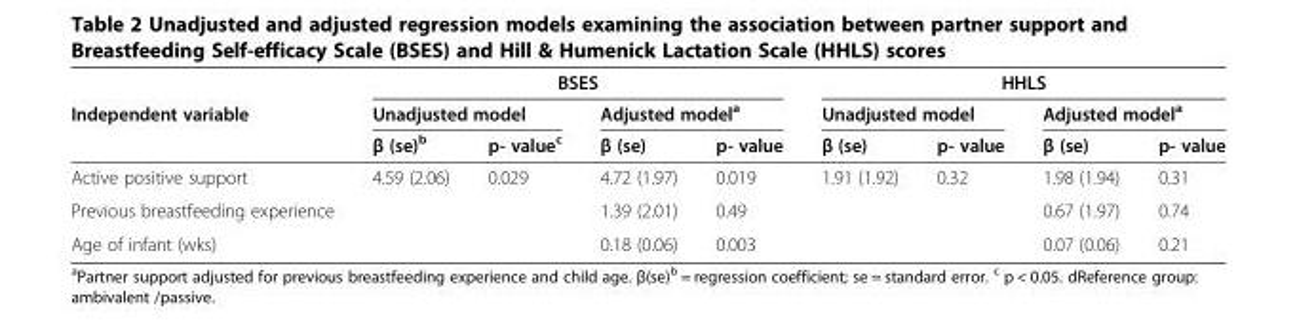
<table><thead><tr><td rowspan="3">Independent variable</td><td colspan="4">BSES</td><td colspan="4">HHLS</td></tr><tr><td colspan="2">Unadjusted model</td><td colspan="2">Adjusted model<sup>a</sup></td><td colspan="2">Unadjusted model</td><td colspan="2">Adjusted model<sup>a</sup></td></tr><tr><td>β (se)<sup>b</sup></td><td>p- value<sup>c</sup></td><td>β (se)</td><td>p- value</td><td>β (se)</td><td>p- value</td><td>β (se)</td><td>p- value</td></tr></thead><tbody><tr><td>Active positive support</td><td>4.59 (2.06)</td><td>0.029</td><td>4.72 (1.97)</td><td>0.019</td><td>1.91 (1.92)</td><td>0.32</td><td>1.98 (1.94)</td><td>0.31</td></tr><tr><td>Previous breastfeeding experience</td><td></td><td></td><td>1.39 (2.01)</td><td>0.49</td><td></td><td></td><td>0.67 (1.97)</td><td>0.74</td></tr><tr><td>Age of infant (wks)</td><td></td><td></td><td>0.18 (0.06)</td><td>0.003</td><td></td><td></td><td>0.07 (0.06)</td><td>0.21</td></tr></tbody></table>